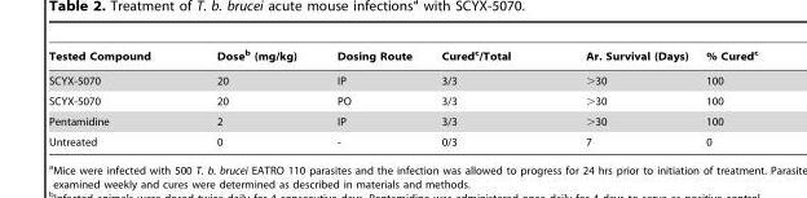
<table><thead><tr><td>Tested Compound</td><td>Dose<sup>b</sup> (mg/kg)</td><td>Dosing Route</td><td>Cured<sup>c</sup>/Total</td><td>Ar. Survival (Days)</td><td>% Cured<sup>c</sup></td></tr></thead><tbody><tr><td>SCYX-5070</td><td>20</td><td>IP</td><td>3/3</td><td>&gt;30</td><td>100</td></tr><tr><td>SCYX-5070</td><td>20</td><td>PO</td><td>3/3</td><td>&gt;30</td><td>100</td></tr><tr><td>Pentamidine</td><td>2</td><td>IP</td><td>3/3</td><td>&gt;30</td><td>100</td></tr><tr><td>Untreated</td><td>0</td><td>-</td><td>0/3</td><td>7</td><td>0</td></tr></tbody></table>